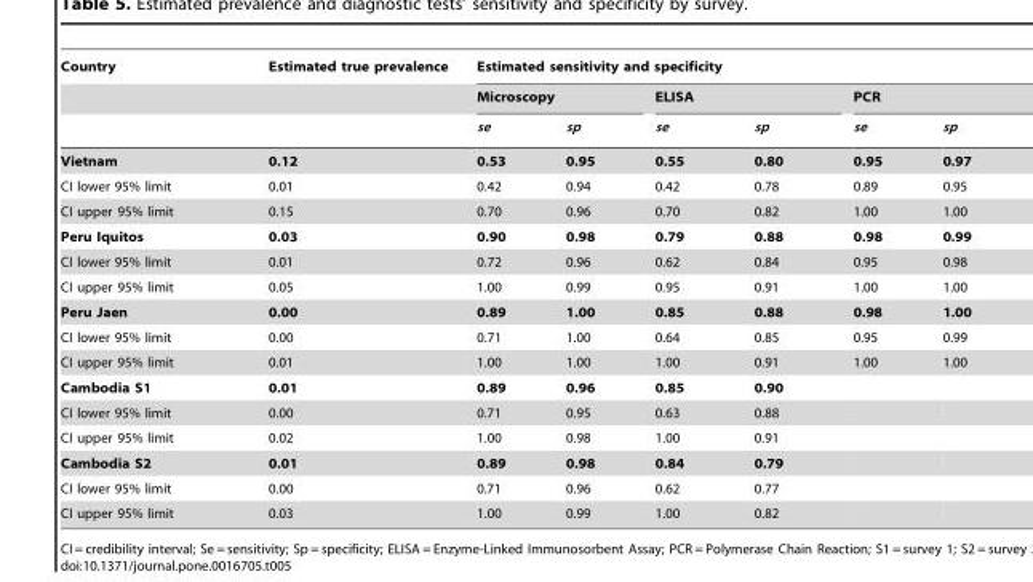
<table><thead><tr><td rowspan="3">Country</td><td rowspan="3">Estimated true prevalence</td><td colspan="6">Estimated sensitivity and specificity</td></tr><tr><td colspan="2">Microscopy</td><td colspan="2">ELISA</td><td colspan="2">PCR</td></tr><tr><td>se</td><td>sp</td><td>se</td><td>sp</td><td>se</td><td>sp</td></tr></thead><tbody><tr><td>Vietnam</td><td>0.12</td><td>0.53</td><td>0.95</td><td>0.55</td><td>0.80</td><td>0.95</td><td>0.97</td></tr><tr><td>CI lower 95% limit</td><td>0.01</td><td>0.42</td><td>0.94</td><td>0.42</td><td>0.78</td><td>0.89</td><td>0.95</td></tr><tr><td>CI upper 95% limit</td><td>0.15</td><td>0.70</td><td>0.96</td><td>0.70</td><td>0.82</td><td>1.00</td><td>1.00</td></tr><tr><td>Peru Iquitos</td><td>0.03</td><td>0.90</td><td>0.98</td><td>0.79</td><td>0.88</td><td>0.98</td><td>0.99</td></tr><tr><td>CI lower 95% limit</td><td>0.01</td><td>0.72</td><td>0.96</td><td>0.62</td><td>0.84</td><td>0.95</td><td>0.98</td></tr><tr><td>CI upper 95% limit</td><td>0.05</td><td>1.00</td><td>0.99</td><td>0.95</td><td>0.91</td><td>1.00</td><td>1.00</td></tr><tr><td>Peru Jaen</td><td>0.00</td><td>0.89</td><td>1.00</td><td>0.85</td><td>0.88</td><td>0.98</td><td>1.00</td></tr><tr><td>CI lower 95% limit</td><td>0.00</td><td>0.71</td><td>1.00</td><td>0.64</td><td>0.85</td><td>0.95</td><td>0.99</td></tr><tr><td>CI upper 95% limit</td><td>0.01</td><td>1.00</td><td>1.00</td><td>1.00</td><td>0.91</td><td>1.00</td><td>1.00</td></tr><tr><td>Cambodia S1</td><td>0.01</td><td>0.89</td><td>0.96</td><td>0.85</td><td>0.90</td><td></td><td></td></tr><tr><td>CI lower 95% limit</td><td>0.00</td><td>0.71</td><td>0.95</td><td>0.63</td><td>0.88</td><td></td><td></td></tr><tr><td>CI upper 95% limit</td><td>0.02</td><td>1.00</td><td>0.98</td><td>1.00</td><td>0.91</td><td></td><td></td></tr><tr><td>Cambodia S2</td><td>0.01</td><td>0.89</td><td>0.98</td><td>0.84</td><td>0.79</td><td></td><td></td></tr><tr><td>CI lower 95% limit</td><td>0.00</td><td>0.71</td><td>0.96</td><td>0.62</td><td>0.77</td><td></td><td></td></tr><tr><td>CI upper 95% limit</td><td>0.03</td><td>1.00</td><td>0.99</td><td>1.00</td><td>0.82</td><td></td><td></td></tr></tbody></table>